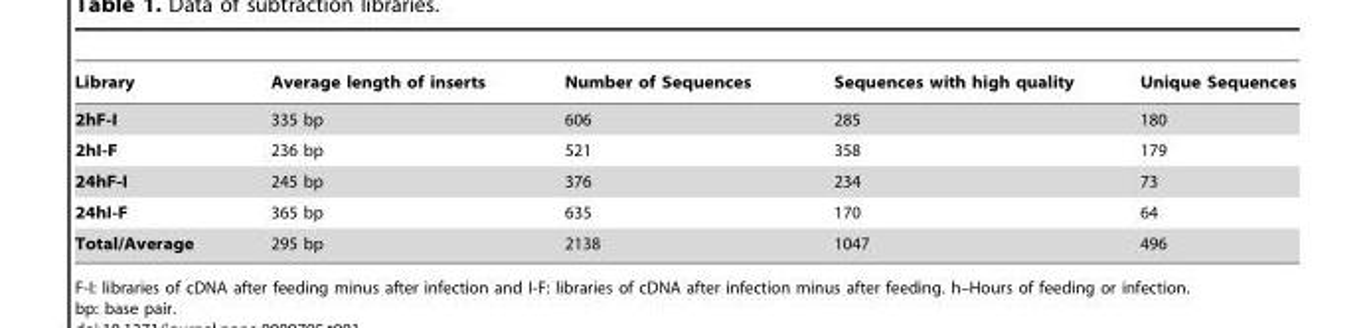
<table><thead><tr><td>Library</td><td>Average length of inserts</td><td>Number of Sequences</td><td>Sequences with high quality</td><td>Unique Sequences</td></tr></thead><tbody><tr><td>2hF-I</td><td>335 bp</td><td>606</td><td>285</td><td>180</td></tr><tr><td>2hI-F</td><td>236 bp</td><td>521</td><td>358</td><td>179</td></tr><tr><td>24hF-I</td><td>245 bp</td><td>376</td><td>234</td><td>73</td></tr><tr><td>24hI-F</td><td>365 bp</td><td>635</td><td>170</td><td>64</td></tr><tr><td>Total/Average</td><td>295 bp</td><td>2138</td><td>1047</td><td>496</td></tr></tbody></table>